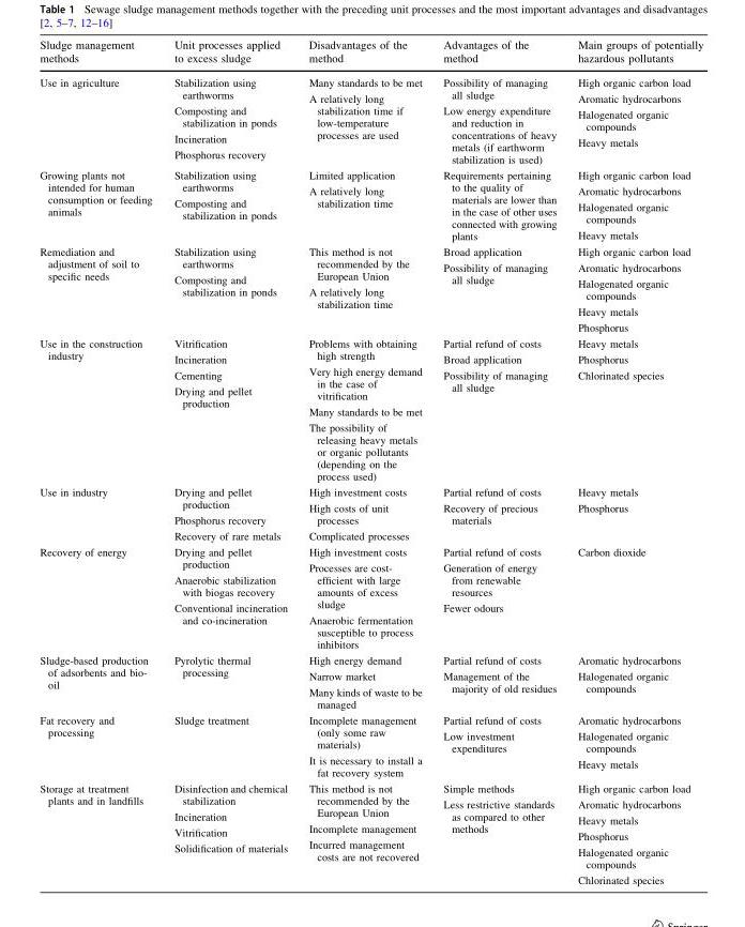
<table><thead><tr><td>Sludge management methods</td><td>Unit processes applied to excess sludge</td><td>Disadvantages of the method</td><td>Advantages of the method</td><td>Main groups of potentially hazardous pollutants</td></tr></thead><tbody><tr><td>Use in agriculture</td><td>Stabilization using earthworms Composting and stabilization in ponds Incineration Phosphorus recovery</td><td>Many standards to be met A relatively long stabilization time if low-temperature processes are used</td><td>Possibility of managing all sludge Low energy expenditure and reduction in concentrations of heavy metals (if earthworm stabilization is used)</td><td>High organic carbon load Aromatic hydrocarbons Halogenated organic compounds Heavy metals</td></tr><tr><td>Growing plants not intended for human consumption or feeding animals</td><td>Stabilization using earthworms Composting and stabilization in ponds</td><td>Limited application A relatively long stabilization time</td><td>Requirements pertaining to the quality of materials are lower than in the case of other uses connected with growing plants</td><td>High organic carbon load Aromatic hydrocarbons Halogenated organic compounds Heavy metals</td></tr><tr><td>Remediation and adjustment of soil to specific needs</td><td>Stabilization using earthworms Composting and stabilization in ponds</td><td>This method is not recommended by the European Union A relatively long stabilization time</td><td>Broad application Possibility of managing all sludge</td><td>High organic carbon load Aromatic hydrocarbons Halogenated organic compounds Heavy metals Phosphorus</td></tr><tr><td>Use in the construction industry</td><td>Vitrification Incineration Cementing Drying and pellet production</td><td>Problems with obtaining high strength Very high energy demand in the case of vitrification Many standards to be met The possibility of releasing heavy metals or organic pollutants (depending on the process used)</td><td>Partial refund of costs Broad application Possibility of managing all sludge</td><td>Heavy metals Phosphorus Chlorinated species</td></tr><tr><td>Use in industry</td><td>Drying and pellet production Phosphorus recovery Recovery of rare metals</td><td>High investment costs High costs of unit processes Complicated processes</td><td>Partial refund of costs Recovery of precious materials</td><td>Heavy metals Phosphorus</td></tr><tr><td>Recovery of energy</td><td>Drying and pellet production Anaerobic stabilization with biogas recovery Conventional incineration and co-incineration</td><td>High investment costs Processes are cost- efficient with large amounts of excess sludge Anaerobic fermentation susceptible to process inhibitors</td><td>Partial refund of costs Generation of energy from renewable resources Fewer odours</td><td>Carbon dioxide</td></tr><tr><td>Sludge-based production of adsorbents and bio- oil</td><td>Pyrolytic thermal processing</td><td>High energy demand Narrow market Many kinds of waste to be managed</td><td>Partial refund of costs Management of the majority of old residues</td><td>Aromatic hydrocarbons Halogenated organic compounds</td></tr><tr><td>Fat recovery and processing</td><td>Sludge treatment</td><td>Incomplete management (only some raw materials) It is necessary to install a fat recovery system</td><td>Partial refund of costs Low investment expenditures</td><td>Aromatic hydrocarbons Halogenated organic compounds Heavy metals</td></tr><tr><td>Storage at treatment plants and in landfills</td><td>Disinfection and chemical stabilization Incineration Vitrification Solidification of materials</td><td>This method is not recommended by the European Union Incomplete management Incurred management costs are not recovered</td><td>Simple methods Less restrictive standards as compared to other methods</td><td>High organic carbon load Aromatic hydrocarbons Heavy metals Phosphorus Halogenated organic compounds Chlorinated species</td></tr></tbody></table>